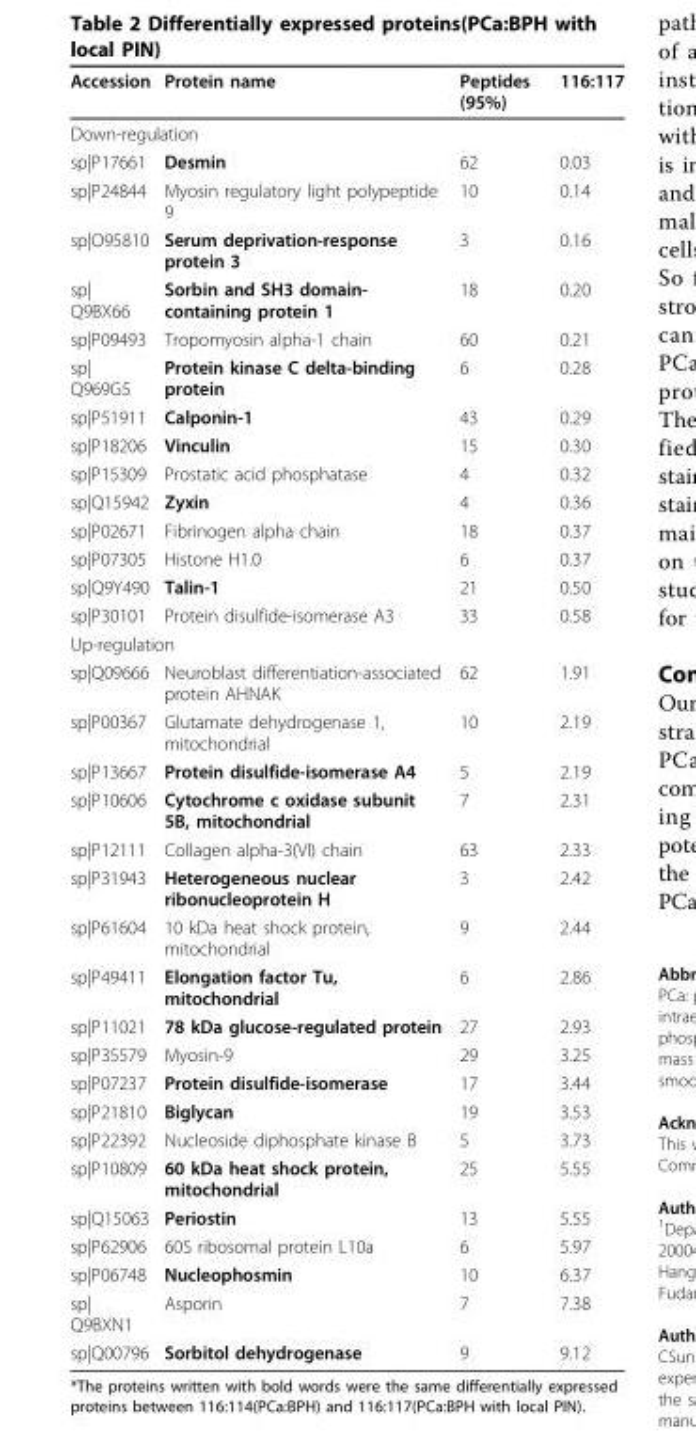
<table><thead><tr><td>Accession</td><td>Protein name</td><td>Peptides (95%)</td><td>116:117</td></tr></thead><tbody><tr><td colspan="4">Down-regulation</td></tr><tr><td>sp|P17661</td><td>Desmin</td><td>62</td><td>0.03</td></tr><tr><td>sp|P24844</td><td>Myosin regulatory light polypeptide 9</td><td>10</td><td>0.14</td></tr><tr><td>sp|O95810</td><td>Serum deprivation-response protein 3</td><td>3</td><td>0.16</td></tr><tr><td>sp| Q9BX66</td><td>Sorbin and SH3 domain- containing protein 1</td><td>18</td><td>0.20</td></tr><tr><td>sp|P09493</td><td>Tropomyosin alpha-1 chain</td><td>60</td><td>0.21</td></tr><tr><td>sp| Q969G5</td><td>Protein kinase C delta-binding protein</td><td>6</td><td>0.28</td></tr><tr><td>sp|P51911</td><td>Calponin-1</td><td>43</td><td>0.29</td></tr><tr><td>sp|P18206</td><td>Vinculin</td><td>15</td><td>0.30</td></tr><tr><td>sp|P15309</td><td>Prostatic acid phosphatase</td><td>4</td><td>0.32</td></tr><tr><td>sp|Q15942</td><td>Zyxin</td><td>4</td><td>0.36</td></tr><tr><td>sp|P02671</td><td>Fibrinogen alpha chain</td><td>18</td><td>0.37</td></tr><tr><td>sp|P07305</td><td>Histone H1.0</td><td>6</td><td>0.37</td></tr><tr><td>sp|Q9Y490</td><td>Talin-1</td><td>21</td><td>0.50</td></tr><tr><td>sp|P30101</td><td>Protein disulfide-isomerase A3</td><td>33</td><td>0.58</td></tr><tr><td colspan="4">Up-regulation</td></tr><tr><td>sp|Q09666</td><td>Neuroblast differentiation-associated protein AHNAK</td><td>62</td><td>1.91</td></tr><tr><td>sp|P00367</td><td>Glutamate dehydrogenase 1, mitochondrial</td><td>10</td><td>2.19</td></tr><tr><td>sp|P13667</td><td>Protein disulfide-isomerase A4</td><td>5</td><td>2.19</td></tr><tr><td>sp|P10606</td><td>Cytochrome c oxidase subunit 5B, mitochondrial</td><td>7</td><td>2.31</td></tr><tr><td>sp|P12111</td><td>Collagen alpha-3(VI) chain</td><td>63</td><td>2.33</td></tr><tr><td>sp|P31943</td><td>Heterogeneous nuclear ribonucleoprotein H</td><td>3</td><td>2.42</td></tr><tr><td>sp|P61604</td><td>10 kDa heat shock protein, mitochondrial</td><td>9</td><td>2.44</td></tr><tr><td>sp|P49411</td><td>Elongation factor Tu, mitochondrial</td><td>6</td><td>2.86</td></tr><tr><td>sp|P11021</td><td>78 kDa glucose-regulated protein</td><td>27</td><td>2.93</td></tr><tr><td>sp|P35579</td><td>Myosin-9</td><td>29</td><td>3.25</td></tr><tr><td>sp|P07237</td><td>Protein disulfide-isomerase</td><td>17</td><td>3.44</td></tr><tr><td>sp|P21810</td><td>Biglycan</td><td>19</td><td>3.53</td></tr><tr><td>sp|P22392</td><td>Nucleoside diphosphate kinase B</td><td>5</td><td>3.73</td></tr><tr><td>sp|P10809</td><td>60 kDa heat shock protein, mitochondrial</td><td>25</td><td>5.55</td></tr><tr><td>sp|Q15063</td><td>Periostin</td><td>13</td><td>5.55</td></tr><tr><td>sp|P62906</td><td>60S ribosomal protein L10a</td><td>6</td><td>5.97</td></tr><tr><td>sp|P06748</td><td>Nucleophosmin</td><td>10</td><td>6.37</td></tr><tr><td>sp| Q9BXN1</td><td>Asporin</td><td>7</td><td>7.38</td></tr><tr><td>sp|Q00796</td><td>Sorbitol dehydrogenase</td><td>9</td><td>9.12</td></tr></tbody></table>